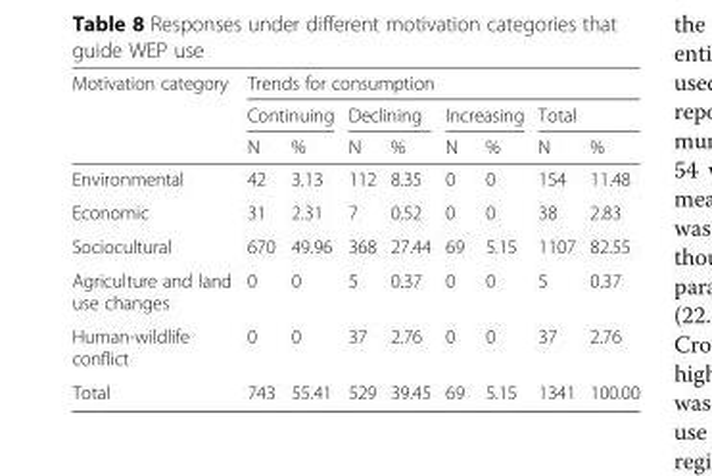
<table><thead><tr><td rowspan="3">Motivation category</td><td colspan="8">Trends for consumption</td></tr><tr><td colspan="2">Continuing</td><td colspan="2">Declining</td><td colspan="2">Increasing</td><td colspan="2">Total</td></tr><tr><td>N</td><td>%</td><td>N</td><td>%</td><td>N</td><td>%</td><td>N</td><td>%</td></tr></thead><tbody><tr><td>Environmental</td><td>42</td><td>3.13</td><td>112</td><td>8.35</td><td>0</td><td>0</td><td>154</td><td>11.48</td></tr><tr><td>Economic</td><td>31</td><td>2.31</td><td>7</td><td>0.52</td><td>0</td><td>0</td><td>38</td><td>2.83</td></tr><tr><td>Sociocultural</td><td>670</td><td>49.96</td><td>368</td><td>27.44</td><td>69</td><td>5.15</td><td>1107</td><td>82.55</td></tr><tr><td>Agriculture and land use changes</td><td>0</td><td>0</td><td>5</td><td>0.37</td><td>0</td><td>0</td><td>5</td><td>0.37</td></tr><tr><td>Human-wildlife conflict</td><td>0</td><td>0</td><td>37</td><td>2.76</td><td>0</td><td>0</td><td>37</td><td>2.76</td></tr><tr><td>Total</td><td>743</td><td>55.41</td><td>529</td><td>39.45</td><td>69</td><td>5.15</td><td>1341</td><td>100.00</td></tr></tbody></table>